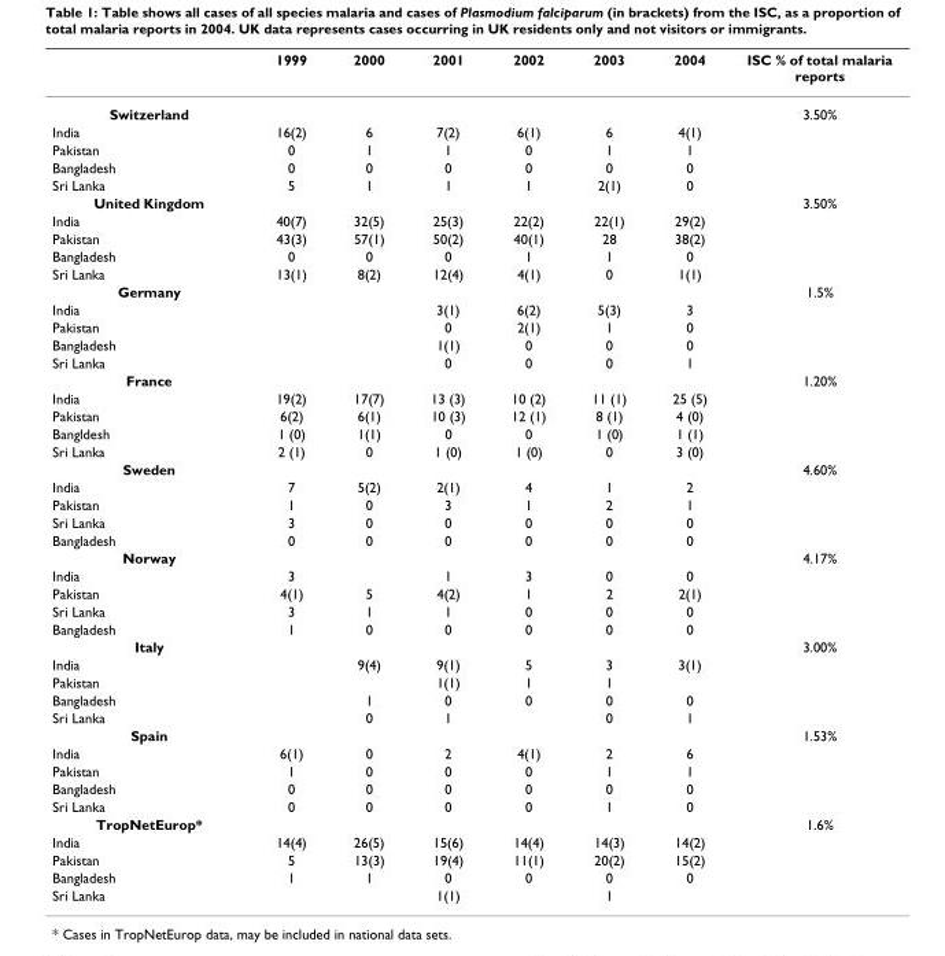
<table><thead><tr><td></td><td>1999</td><td>2000</td><td>2001</td><td>2002</td><td>2003</td><td>2004</td><td>ISC % of total malaria reports</td></tr></thead><tbody><tr><td>Switzerland</td><td></td><td></td><td></td><td></td><td></td><td></td><td>3.50%</td></tr><tr><td>India</td><td>16(2)</td><td>6</td><td>7(2)</td><td>6(1)</td><td>6</td><td>4(1)</td><td></td></tr><tr><td>Pakistan</td><td>0</td><td>1</td><td>1</td><td>0</td><td>1</td><td>1</td><td></td></tr><tr><td>Bangladesh</td><td>0</td><td>0</td><td>0</td><td>0</td><td>0</td><td>0</td><td></td></tr><tr><td>Sri Lanka</td><td>5</td><td>1</td><td>1</td><td>1</td><td>2(1)</td><td>0</td><td></td></tr><tr><td>United Kingdom</td><td></td><td></td><td></td><td></td><td></td><td></td><td>3.50%</td></tr><tr><td>India</td><td>40(7)</td><td>32(5)</td><td>25(3)</td><td>22(2)</td><td>22(1)</td><td>29(2)</td><td></td></tr><tr><td>Pakistan</td><td>43(3)</td><td>57(1)</td><td>50(2)</td><td>40(1)</td><td>28</td><td>38(2)</td><td></td></tr><tr><td>Bangladesh</td><td>0</td><td>0</td><td>0</td><td>1</td><td>1</td><td>0</td><td></td></tr><tr><td>Sri Lanka</td><td>13(1)</td><td>8(2)</td><td>12(4)</td><td>4(1)</td><td>0</td><td>1(1)</td><td></td></tr><tr><td>Germany</td><td></td><td></td><td></td><td></td><td></td><td></td><td>1.5%</td></tr><tr><td>India</td><td></td><td></td><td>3(1)</td><td>6(2)</td><td>5(3)</td><td>3</td><td></td></tr><tr><td>Pakistan</td><td></td><td></td><td>0</td><td>2(1)</td><td>1</td><td>0</td><td></td></tr><tr><td>Bangladesh</td><td></td><td></td><td>1(1)</td><td>0</td><td>0</td><td>0</td><td></td></tr><tr><td>Sri Lanka</td><td></td><td></td><td>0</td><td>0</td><td>0</td><td>1</td><td></td></tr><tr><td>France</td><td></td><td></td><td></td><td></td><td></td><td></td><td>1.20%</td></tr><tr><td>India</td><td>19(2)</td><td>17(7)</td><td>13 (3)</td><td>10 (2)</td><td>11 (1)</td><td>25 (5)</td><td></td></tr><tr><td>Pakistan</td><td>6(2)</td><td>6(1)</td><td>10 (3)</td><td>12 (1)</td><td>8 (1)</td><td>4 (0)</td><td></td></tr><tr><td>Bangldesh</td><td>1 (0)</td><td>1(1)</td><td>0</td><td>0</td><td>1 (0)</td><td>1 (1)</td><td></td></tr><tr><td>Sri Lanka</td><td>2 (1)</td><td>0</td><td>1 (0)</td><td>1 (0)</td><td>0</td><td>3 (0)</td><td></td></tr><tr><td>Sweden</td><td></td><td></td><td></td><td></td><td></td><td></td><td>4.60%</td></tr><tr><td>India</td><td>7</td><td>5(2)</td><td>2(1)</td><td>4</td><td>1</td><td>2</td><td></td></tr><tr><td>Pakistan</td><td>1</td><td>0</td><td>3</td><td>1</td><td>2</td><td>1</td><td></td></tr><tr><td>Sri Lanka</td><td>3</td><td>0</td><td>0</td><td>0</td><td>0</td><td>0</td><td></td></tr><tr><td>Bangladesh</td><td>0</td><td>0</td><td>0</td><td>0</td><td>0</td><td>0</td><td></td></tr><tr><td>Norway</td><td></td><td></td><td></td><td></td><td></td><td></td><td>4.17%</td></tr><tr><td>India</td><td>3</td><td></td><td>1</td><td>3</td><td>0</td><td>0</td><td></td></tr><tr><td>Pakistan</td><td>4(1)</td><td>5</td><td>4(2)</td><td>1</td><td>2</td><td>2(1)</td><td></td></tr><tr><td>Sri Lanka</td><td>3</td><td>1</td><td>1</td><td>0</td><td>0</td><td>0</td><td></td></tr><tr><td>Bangladesh</td><td>1</td><td>0</td><td>0</td><td>0</td><td>0</td><td>0</td><td></td></tr><tr><td>Italy</td><td></td><td></td><td></td><td></td><td></td><td></td><td>3.00%</td></tr><tr><td>India</td><td></td><td>9(4)</td><td>9(1)</td><td>5</td><td>3</td><td>3(1)</td><td></td></tr><tr><td>Pakistan</td><td></td><td></td><td>1(1)</td><td>1</td><td>1</td><td></td><td></td></tr><tr><td>Bangladesh</td><td></td><td>1</td><td>0</td><td>0</td><td>0</td><td>0</td><td></td></tr><tr><td>Sri Lanka</td><td></td><td>0</td><td>1</td><td></td><td>0</td><td>1</td><td></td></tr><tr><td>Spain</td><td></td><td></td><td></td><td></td><td></td><td></td><td>1.53%</td></tr><tr><td>India</td><td>6(1)</td><td>0</td><td>2</td><td>4(1)</td><td>2</td><td>6</td><td></td></tr><tr><td>Pakistan</td><td>1</td><td>0</td><td>0</td><td>0</td><td>1</td><td>1</td><td></td></tr><tr><td>Bangladesh</td><td>0</td><td>0</td><td>0</td><td>0</td><td>0</td><td>0</td><td></td></tr><tr><td>Sri Lanka</td><td>0</td><td>0</td><td>0</td><td>0</td><td>1</td><td>0</td><td></td></tr><tr><td>TropNetEurop*</td><td></td><td></td><td></td><td></td><td></td><td></td><td>1.6%</td></tr><tr><td>India</td><td>14(4)</td><td>26(5)</td><td>15(6)</td><td>14(4)</td><td>14(3)</td><td>14(2)</td><td></td></tr><tr><td>Pakistan</td><td>5</td><td>13(3)</td><td>19(4)</td><td>11(1)</td><td>20(2)</td><td>15(2)</td><td></td></tr><tr><td>Bangladesh</td><td>1</td><td>1</td><td>0</td><td>0</td><td>0</td><td>0</td><td></td></tr><tr><td>Sri Lanka</td><td></td><td></td><td>1(1)</td><td></td><td>1</td><td></td><td></td></tr></tbody></table>